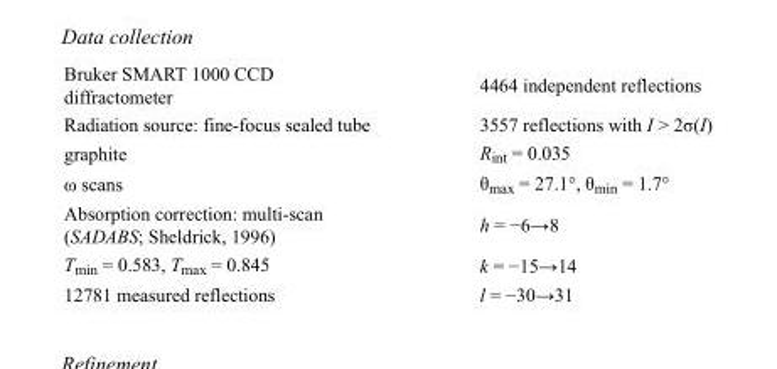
<table><tbody><tr><td>Bruker SMART 1000 CCD diffractometer</td><td>4464 independent reflections</td></tr><tr><td>Radiation source: fine-focus sealed tube</td><td>3557 reflections with I &gt; 2σ(I)</td></tr><tr><td>graphite</td><td>R<sub>int</sub> = 0.035</td></tr><tr><td>ω scans</td><td>θ<sub>max</sub> = 27.1°, θ<sub>min</sub> = 1.7°</td></tr><tr><td>Absorption correction: multi-scan (SADABS; Sheldrick, 1996)</td><td>h = −6→8</td></tr><tr><td>T<sub>min</sub> = 0.583, T<sub>max</sub> = 0.845</td><td>k = −15→14</td></tr><tr><td>12781 measured reflections</td><td>l = −30→31</td></tr></tbody></table>